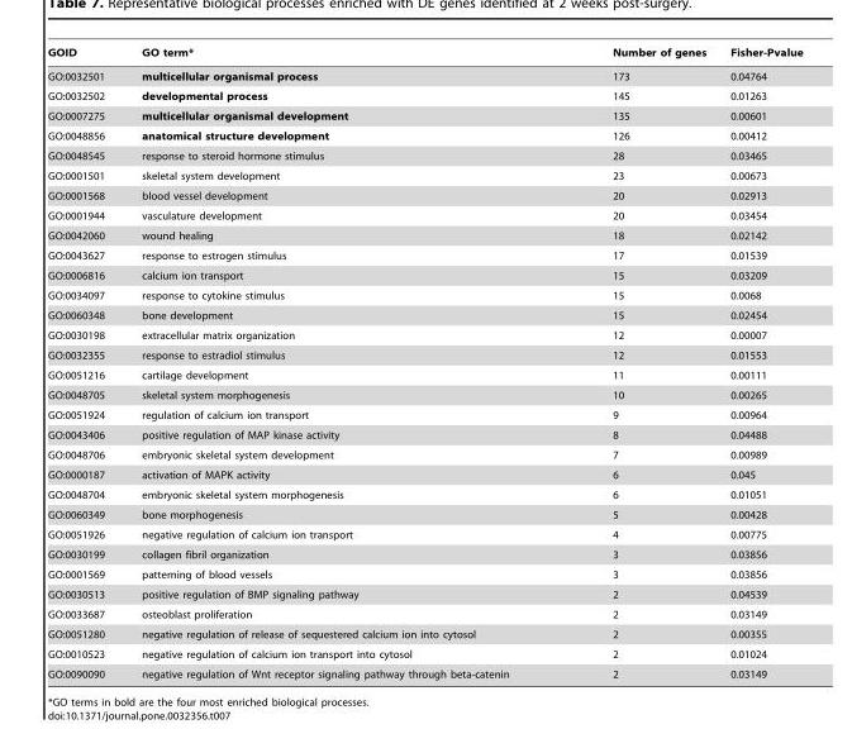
<table><thead><tr><td>GOID</td><td>GO term*</td><td>Number of genes</td><td>Fisher-Pvalue</td></tr></thead><tbody><tr><td>GO:0032501</td><td>multicellular organismal process</td><td>173</td><td>0.04764</td></tr><tr><td>GO:0032502</td><td>developmental process</td><td>145</td><td>0.01263</td></tr><tr><td>GO:0007275</td><td>multicellular organismal development</td><td>135</td><td>0.00601</td></tr><tr><td>GO:0048856</td><td>anatomical structure development</td><td>126</td><td>0.00412</td></tr><tr><td>GO:0048545</td><td>response to steroid hormone stimulus</td><td>28</td><td>0.03465</td></tr><tr><td>GO:0001501</td><td>skeletal system development</td><td>23</td><td>0.00673</td></tr><tr><td>GO:0001568</td><td>blood vessel development</td><td>20</td><td>0.02913</td></tr><tr><td>GO:0001944</td><td>vasculature development</td><td>20</td><td>0.03454</td></tr><tr><td>GO:0042060</td><td>wound healing</td><td>18</td><td>0.02142</td></tr><tr><td>GO:0043627</td><td>response to estrogen stimulus</td><td>17</td><td>0.01539</td></tr><tr><td>GO:0006816</td><td>calcium ion transport</td><td>15</td><td>0.03209</td></tr><tr><td>GO:0034097</td><td>response to cytokine stimulus</td><td>15</td><td>0.0068</td></tr><tr><td>GO:0060348</td><td>bone development</td><td>15</td><td>0.02454</td></tr><tr><td>GO:0030198</td><td>extracellular matrix organization</td><td>12</td><td>0.00007</td></tr><tr><td>GO:0032355</td><td>response to estradiol stimulus</td><td>12</td><td>0.01553</td></tr><tr><td>GO:0051216</td><td>cartilage development</td><td>11</td><td>0.00111</td></tr><tr><td>GO:0048705</td><td>skeletal system morphogenesis</td><td>10</td><td>0.00265</td></tr><tr><td>GO:0051924</td><td>regulation of calcium ion transport</td><td>9</td><td>0.00964</td></tr><tr><td>GO:0043406</td><td>positive regulation of MAP kinase activity</td><td>8</td><td>0.04488</td></tr><tr><td>GO:0048706</td><td>embryonic skeletal system development</td><td>7</td><td>0.00989</td></tr><tr><td>GO:0000187</td><td>activation of MAPK activity</td><td>6</td><td>0.045</td></tr><tr><td>GO:0048704</td><td>embryonic skeletal system morphogenesis</td><td>6</td><td>0.01051</td></tr><tr><td>GO:0060349</td><td>bone morphogenesis</td><td>5</td><td>0.00428</td></tr><tr><td>GO:0051926</td><td>negative regulation of calcium ion transport</td><td>4</td><td>0.00775</td></tr><tr><td>GO:0030199</td><td>collagen fibril organization</td><td>3</td><td>0.03856</td></tr><tr><td>GO:0001569</td><td>patterning of blood vessels</td><td>3</td><td>0.03856</td></tr><tr><td>GO:0030513</td><td>positive regulation of BMP signaling pathway</td><td>2</td><td>0.04539</td></tr><tr><td>GO:0033687</td><td>osteoblast proliferation</td><td>2</td><td>0.03149</td></tr><tr><td>GO:0051280</td><td>negative regulation of release of sequestered calcium ion into cytosol</td><td>2</td><td>0.00355</td></tr><tr><td>GO:0010523</td><td>negative regulation of calcium ion transport into cytosol</td><td>2</td><td>0.01024</td></tr><tr><td>GO:0090090</td><td>negative regulation of Wnt receptor signaling pathway through beta-catenin</td><td>2</td><td>0.03149</td></tr></tbody></table>